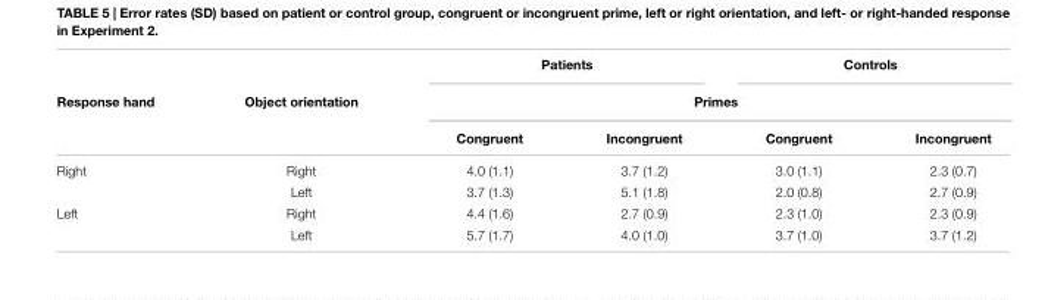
<table><thead><tr><td rowspan="3">Response hand</td><td rowspan="3">Object orientation</td><td colspan="2">Patients</td><td colspan="2">Controls</td></tr><tr><td colspan="4">Primes</td></tr><tr><td>Congruent</td><td>Incongruent</td><td>Congruent</td><td>Incongruent</td></tr></thead><tbody><tr><td rowspan="2">Right</td><td>Right</td><td>4.0 (1.1)</td><td>3.7 (1.2)</td><td>3.0 (1.1)</td><td>2.3 (0.7)</td></tr><tr><td>Left</td><td>3.7 (1.3)</td><td>5.1 (1.8)</td><td>2.0 (0.8)</td><td>2.7 (0.9)</td></tr><tr><td rowspan="2">Left</td><td>Right</td><td>4.4 (1.6)</td><td>2.7 (0.9)</td><td>2.3 (1.0)</td><td>2.3 (0.9)</td></tr><tr><td>Left</td><td>5.7 (1.7)</td><td>4.0 (1.0)</td><td>3.7 (1.0)</td><td>3.7 (1.2)</td></tr></tbody></table>